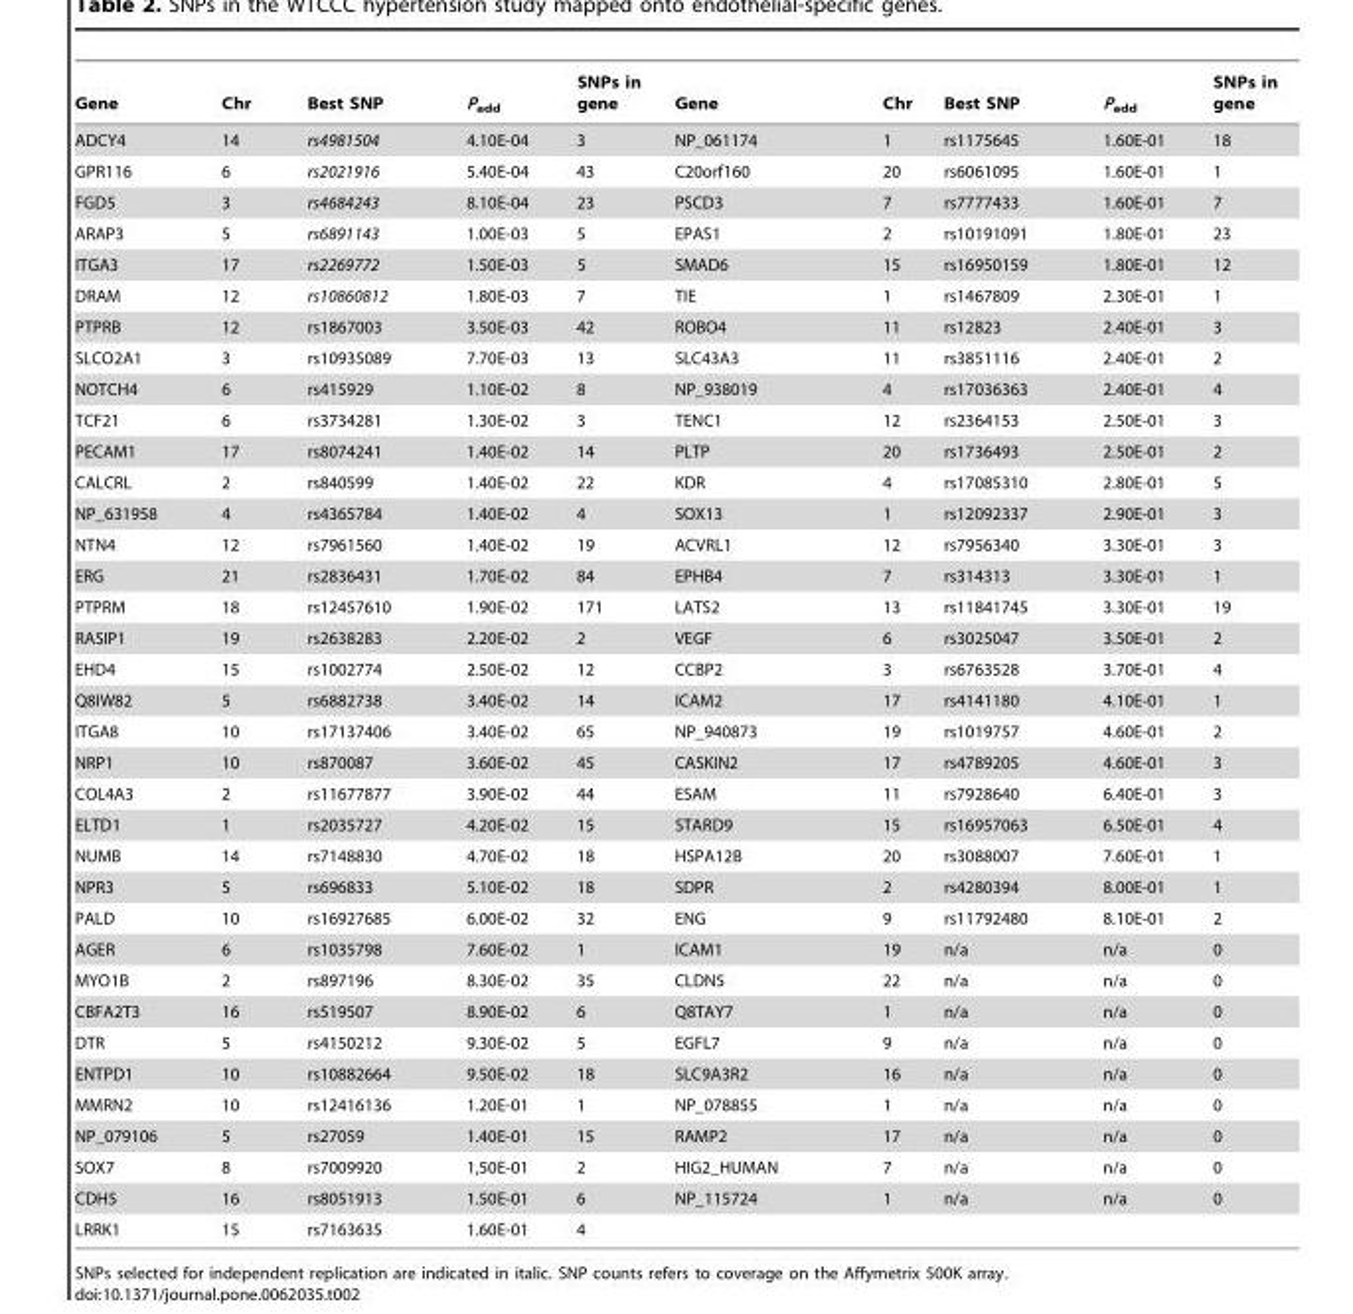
<table><thead><tr><td>Gene</td><td>Chr</td><td>Best SNP</td><td>P<sub>add</sub></td><td>SNPs in gene</td><td>Gene</td><td>Chr</td><td>Best SNP</td><td>P<sub>add</sub></td><td>SNPs in gene</td></tr></thead><tbody><tr><td>ADCY4</td><td>14</td><td>rs4981504</td><td>4.10E-04</td><td>3</td><td>NP_061174</td><td>1</td><td>rs1175645</td><td>1.60E-01</td><td>18</td></tr><tr><td>GPR116</td><td>6</td><td>rs2021916</td><td>5.40E-04</td><td>43</td><td>C20orf160</td><td>20</td><td>rs6061095</td><td>1.60E-01</td><td>1</td></tr><tr><td>FGD5</td><td>3</td><td>rs4684243</td><td>8.10E-04</td><td>23</td><td>PSCD3</td><td>7</td><td>rs7777433</td><td>1.60E-01</td><td>7</td></tr><tr><td>ARAP3</td><td>5</td><td>rs6891143</td><td>1.00E-03</td><td>5</td><td>EPAS1</td><td>2</td><td>rs10191091</td><td>1.80E-01</td><td>23</td></tr><tr><td>ITGA3</td><td>17</td><td>rs2269772</td><td>1.50E-03</td><td>5</td><td>SMAD6</td><td>15</td><td>rs16950159</td><td>1.80E-01</td><td>12</td></tr><tr><td>DRAM</td><td>12</td><td>rs10860812</td><td>1.80E-03</td><td>7</td><td>TIE</td><td>1</td><td>rs1467809</td><td>2.30E-01</td><td>1</td></tr><tr><td>PTPRB</td><td>12</td><td>rs1867003</td><td>3.50E-03</td><td>42</td><td>ROBO4</td><td>11</td><td>rs12823</td><td>2.40E-01</td><td>3</td></tr><tr><td>SLCO2A1</td><td>3</td><td>rs10935089</td><td>7.70E-03</td><td>13</td><td>SLC43A3</td><td>11</td><td>rs3851116</td><td>2.40E-01</td><td>2</td></tr><tr><td>NOTCH4</td><td>6</td><td>rs415929</td><td>1.10E-02</td><td>8</td><td>NP_938019</td><td>4</td><td>rs17036363</td><td>2.40E-01</td><td>4</td></tr><tr><td>TCF21</td><td>6</td><td>rs3734281</td><td>1.30E-02</td><td>3</td><td>TENC1</td><td>12</td><td>rs2364153</td><td>2.50E-01</td><td>3</td></tr><tr><td>PECAM1</td><td>17</td><td>rs8074241</td><td>1.40E-02</td><td>14</td><td>PLTP</td><td>20</td><td>rs1736493</td><td>2.50E-01</td><td>2</td></tr><tr><td>CALCRL</td><td>2</td><td>rs840599</td><td>1.40E-02</td><td>22</td><td>KDR</td><td>4</td><td>rs17085310</td><td>2.80E-01</td><td>5</td></tr><tr><td>NP_631958</td><td>4</td><td>rs4365784</td><td>1.40E-02</td><td>4</td><td>SOX13</td><td>1</td><td>rs12092337</td><td>2.90E-01</td><td>3</td></tr><tr><td>NTN4</td><td>12</td><td>rs7961560</td><td>1.40E-02</td><td>19</td><td>ACVRL1</td><td>12</td><td>rs7956340</td><td>3.30E-01</td><td>3</td></tr><tr><td>ERG</td><td>21</td><td>rs2836431</td><td>1.70E-02</td><td>84</td><td>EPHB4</td><td>7</td><td>rs314313</td><td>3.30E-01</td><td>1</td></tr><tr><td>PTPRM</td><td>18</td><td>rs12457610</td><td>1.90E-02</td><td>171</td><td>LATS2</td><td>13</td><td>rs11841745</td><td>3.30E-01</td><td>19</td></tr><tr><td>RASIP1</td><td>19</td><td>rs2638283</td><td>2.20E-02</td><td>2</td><td>VEGF</td><td>6</td><td>rs3025047</td><td>3.50E-01</td><td>2</td></tr><tr><td>EHD4</td><td>15</td><td>rs1002774</td><td>2.50E-02</td><td>12</td><td>CCBP2</td><td>3</td><td>rs6763528</td><td>3.70E-01</td><td>4</td></tr><tr><td>Q8IW82</td><td>5</td><td>rs6882738</td><td>3.40E-02</td><td>14</td><td>ICAM2</td><td>17</td><td>rs4141180</td><td>4.10E-01</td><td>1</td></tr><tr><td>ITGA8</td><td>10</td><td>rs17137406</td><td>3.40E-02</td><td>65</td><td>NP_940873</td><td>19</td><td>rs1019757</td><td>4.60E-01</td><td>2</td></tr><tr><td>NRP1</td><td>10</td><td>rs870087</td><td>3.60E-02</td><td>45</td><td>CASKIN2</td><td>17</td><td>rs4789205</td><td>4.60E-01</td><td>3</td></tr><tr><td>COL4A3</td><td>2</td><td>rs11677877</td><td>3.90E-02</td><td>44</td><td>ESAM</td><td>11</td><td>rs7928640</td><td>6.40E-01</td><td>3</td></tr><tr><td>ELTD1</td><td>1</td><td>rs2035727</td><td>4.20E-02</td><td>15</td><td>STARD9</td><td>15</td><td>rs16957063</td><td>6.50E-01</td><td>4</td></tr><tr><td>NUMB</td><td>14</td><td>rs7148830</td><td>4.70E-02</td><td>18</td><td>HSPA12B</td><td>20</td><td>rs3088007</td><td>7.60E-01</td><td>1</td></tr><tr><td>NPR3</td><td>5</td><td>rs696833</td><td>5.10E-02</td><td>18</td><td>SDPR</td><td>2</td><td>rs4280394</td><td>8.00E-01</td><td>1</td></tr><tr><td>PALD</td><td>10</td><td>rs16927685</td><td>6.00E-02</td><td>32</td><td>ENG</td><td>9</td><td>rs11792480</td><td>8.10E-01</td><td>2</td></tr><tr><td>AGER</td><td>6</td><td>rs1035798</td><td>7.60E-02</td><td>1</td><td>ICAM1</td><td>19</td><td>n/a</td><td>n/a</td><td>0</td></tr><tr><td>MYO1B</td><td>2</td><td>rs897196</td><td>8.30E-02</td><td>35</td><td>CLDN5</td><td>22</td><td>n/a</td><td>n/a</td><td>0</td></tr><tr><td>CBFA2T3</td><td>16</td><td>rs519507</td><td>8.90E-02</td><td>6</td><td>Q8TAY7</td><td>1</td><td>n/a</td><td>n/a</td><td>0</td></tr><tr><td>DTR</td><td>5</td><td>rs4150212</td><td>9.30E-02</td><td>5</td><td>EGFL7</td><td>9</td><td>n/a</td><td>n/a</td><td>0</td></tr><tr><td>ENTPD1</td><td>10</td><td>rs10882664</td><td>9.50E-02</td><td>18</td><td>SLC9A3R2</td><td>16</td><td>n/a</td><td>n/a</td><td>0</td></tr><tr><td>MMRN2</td><td>10</td><td>rs12416136</td><td>1.20E-01</td><td>1</td><td>NP_078855</td><td>1</td><td>n/a</td><td>n/a</td><td>0</td></tr><tr><td>NP_079106</td><td>5</td><td>rs27059</td><td>1.40E-01</td><td>15</td><td>RAMP2</td><td>17</td><td>n/a</td><td>n/a</td><td>0</td></tr><tr><td>SOX7</td><td>8</td><td>rs7009920</td><td>1,50E-01</td><td>2</td><td>HIG2_HUMAN</td><td>7</td><td>n/a</td><td>n/a</td><td>0</td></tr><tr><td>CDH5</td><td>16</td><td>rs8051913</td><td>1.50E-01</td><td>6</td><td>NP_115724</td><td>1</td><td>n/a</td><td>n/a</td><td>0</td></tr><tr><td>LRRK1</td><td>15</td><td>rs7163635</td><td>1.60E-01</td><td>4</td><td></td><td></td><td></td><td></td><td></td></tr></tbody></table>